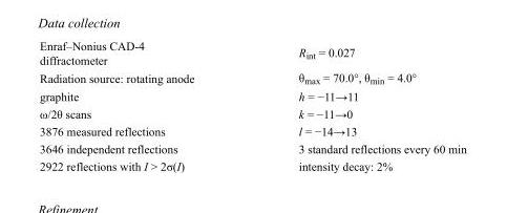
<table><tbody><tr><td>Enraf–Nonius CAD-4 diffractometer</td><td>R<sub>int</sub> = 0.027</td></tr><tr><td>Radiation source: rotating anode</td><td>θ<sub>max</sub> = 70.0°, θ<sub>min</sub> = 4.0°</td></tr><tr><td>graphite</td><td>h = −11→11</td></tr><tr><td>ω/2θ scans</td><td>k = −11→0</td></tr><tr><td>3876 measured reflections</td><td>l = −14→13</td></tr><tr><td>3646 independent reflections</td><td>3 standard reflections every 60 min</td></tr><tr><td>2922 reflections with I &gt; 2σ(I)</td><td>intensity decay: 2%</td></tr></tbody></table>